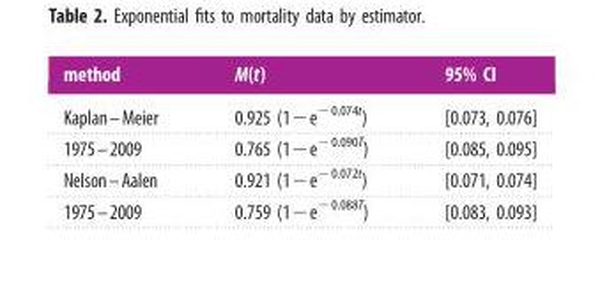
<table><thead><tr><td>method</td><td>M(t)</td><td>95% CI</td></tr></thead><tbody><tr><td>Kaplan–Meier</td><td>0.925 (1−e<sup>−0.074t</sup>)</td><td>[0.073, 0.076]</td></tr><tr><td>1975–2009</td><td>0.765 (1−e<sup>−0.090T</sup>)</td><td>[0.085, 0.095]</td></tr><tr><td>Nelson–Aalen</td><td>0.921 (1−e<sup>−0.072t</sup>)</td><td>[0.071, 0.074]</td></tr><tr><td>1975–2009</td><td>0.759 (1−e<sup>−0.088T</sup>)</td><td>[0.083, 0.093]</td></tr></tbody></table>